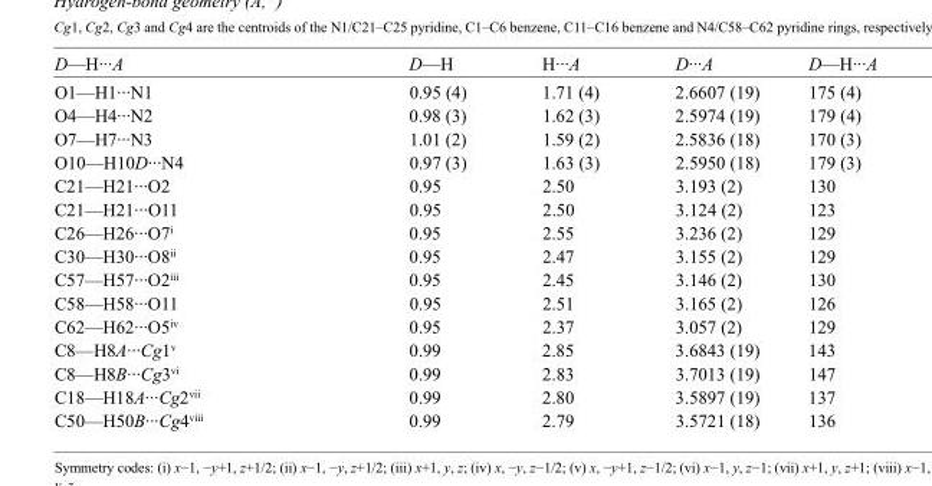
<table><tbody><tr><td>D—H···A</td><td>D—H</td><td>H···A</td><td>D···A</td><td>D—H···A</td></tr><tr><td>O1—H1···N1</td><td>0.95 (4)</td><td>1.71 (4)</td><td>2.6607 (19)</td><td>175 (4)</td></tr><tr><td>O4—H4···N2</td><td>0.98 (3)</td><td>1.62 (3)</td><td>2.5974 (19)</td><td>179 (4)</td></tr><tr><td>O7—H7···N3</td><td>1.01 (2)</td><td>1.59 (2)</td><td>2.5836 (18)</td><td>170 (3)</td></tr><tr><td>O10—H10D···N4</td><td>0.97 (3)</td><td>1.63 (3)</td><td>2.5950 (18)</td><td>179 (3)</td></tr><tr><td>C21—H21···O2</td><td>0.95</td><td>2.50</td><td>3.193 (2)</td><td>130</td></tr><tr><td>C21—H21···O11</td><td>0.95</td><td>2.50</td><td>3.124 (2)</td><td>123</td></tr><tr><td>C26—H26···O7<sup>i</sup></td><td>0.95</td><td>2.55</td><td>3.236 (2)</td><td>129</td></tr><tr><td>C30—H30···O8<sup>ii</sup></td><td>0.95</td><td>2.47</td><td>3.155 (2)</td><td>129</td></tr><tr><td>C57—H57···O2<sup>iii</sup></td><td>0.95</td><td>2.45</td><td>3.146 (2)</td><td>130</td></tr><tr><td>C58—H58···O11</td><td>0.95</td><td>2.51</td><td>3.165 (2)</td><td>126</td></tr><tr><td>C62—H62···O5<sup>iv</sup></td><td>0.95</td><td>2.37</td><td>3.057 (2)</td><td>129</td></tr><tr><td>C8—H8A···Cg1<sup>v</sup></td><td>0.99</td><td>2.85</td><td>3.6843 (19)</td><td>143</td></tr><tr><td>C8—H8B···Cg3<sup>vi</sup></td><td>0.99</td><td>2.83</td><td>3.7013 (19)</td><td>147</td></tr><tr><td>C18—H18A···Cg2<sup>vii</sup></td><td>0.99</td><td>2.80</td><td>3.5897 (19)</td><td>137</td></tr><tr><td>C50—H50B···Cg4<sup>viii</sup></td><td>0.99</td><td>2.79</td><td>3.5721 (18)</td><td>136</td></tr></tbody></table>